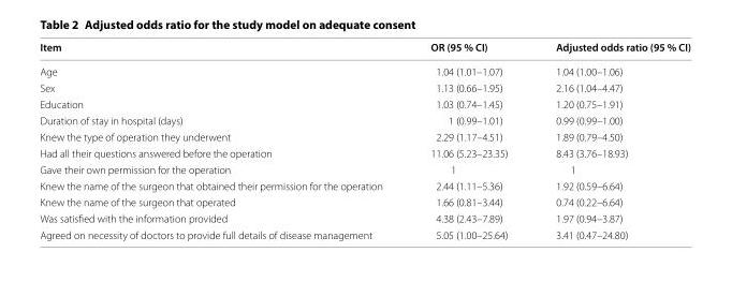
<table><thead><tr><td>Item</td><td>OR (95 % CI)</td><td>Adjusted odds ratio (95 % CI)</td></tr></thead><tbody><tr><td>Age</td><td>1.04 (1.01–1.07)</td><td>1.04 (1.00–1.06)</td></tr><tr><td>Sex</td><td>1.13 (0.66–1.95)</td><td>2.16 (1.04–4.47)</td></tr><tr><td>Education</td><td>1.03 (0.74–1.45)</td><td>1.20 (0.75–1.91)</td></tr><tr><td>Duration of stay in hospital (days)</td><td>1 (0.99–1.01)</td><td>0.99 (0.99–1.00)</td></tr><tr><td>Knew the type of operation they underwent</td><td>2.29 (1.17–4.51)</td><td>1.89 (0.79–4.50)</td></tr><tr><td>Had all their questions answered before the operation</td><td>11.06 (5.23–23.35)</td><td>8.43 (3.76–18.93)</td></tr><tr><td>Gave their own permission for the operation</td><td>1</td><td>1</td></tr><tr><td>Knew the name of the surgeon that obtained their permission for the operation</td><td>2.44 (1.11–5.36)</td><td>1.92 (0.59–6.64)</td></tr><tr><td>Knew the name of the surgeon that operated</td><td>1.66 (0.81–3.44)</td><td>0.74 (0.22–6.64)</td></tr><tr><td>Was satisfied with the information provided</td><td>4.38 (2.43–7.89)</td><td>1.97 (0.94–3.87)</td></tr><tr><td>Agreed on necessity of doctors to provide full details of disease management</td><td>5.05 (1.00–25.64)</td><td>3.41 (0.47–24.80)</td></tr></tbody></table>